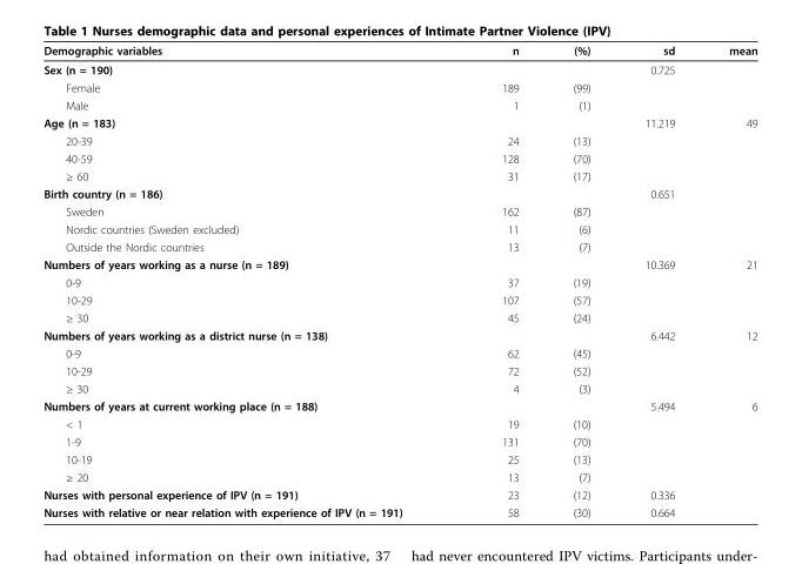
<table><thead><tr><td>Demographic variables</td><td>n</td><td>(%)</td><td>sd</td><td>mean</td></tr></thead><tbody><tr><td>Sex (n = 190)</td><td></td><td></td><td>0.725</td><td></td></tr><tr><td>Female</td><td>189</td><td>(99)</td><td></td><td></td></tr><tr><td>Male</td><td>1</td><td>(1)</td><td></td><td></td></tr><tr><td>Age (n = 183)</td><td></td><td></td><td>11.219</td><td>49</td></tr><tr><td>20-39</td><td>24</td><td>(13)</td><td></td><td></td></tr><tr><td>40-59</td><td>128</td><td>(70)</td><td></td><td></td></tr><tr><td>≥ 60</td><td>31</td><td>(17)</td><td></td><td></td></tr><tr><td>Birth country (n = 186)</td><td></td><td></td><td>0.651</td><td></td></tr><tr><td>Sweden</td><td>162</td><td>(87)</td><td></td><td></td></tr><tr><td>Nordic countries (Sweden excluded)</td><td>11</td><td>(6)</td><td></td><td></td></tr><tr><td>Outside the Nordic countries</td><td>13</td><td>(7)</td><td></td><td></td></tr><tr><td>Numbers of years working as a nurse (n = 189)</td><td></td><td></td><td>10.369</td><td>21</td></tr><tr><td>0-9</td><td>37</td><td>(19)</td><td></td><td></td></tr><tr><td>10-29</td><td>107</td><td>(57)</td><td></td><td></td></tr><tr><td>≥ 30</td><td>45</td><td>(24)</td><td></td><td></td></tr><tr><td>Numbers of years working as a district nurse (n = 138)</td><td></td><td></td><td>6.442</td><td>12</td></tr><tr><td>0-9</td><td>62</td><td>(45)</td><td></td><td></td></tr><tr><td>10-29</td><td>72</td><td>(52)</td><td></td><td></td></tr><tr><td>≥ 30</td><td>4</td><td>(3)</td><td></td><td></td></tr><tr><td>Numbers of years at current working place (n = 188)</td><td></td><td></td><td>5.494</td><td>6</td></tr><tr><td>&lt; 1</td><td>19</td><td>(10)</td><td></td><td></td></tr><tr><td>1-9</td><td>131</td><td>(70)</td><td></td><td></td></tr><tr><td>10-19</td><td>25</td><td>(13)</td><td></td><td></td></tr><tr><td>≥ 20</td><td>13</td><td>(7)</td><td></td><td></td></tr><tr><td>Nurses with personal experience of IPV (n = 191)</td><td>23</td><td>(12)</td><td>0.336</td><td></td></tr><tr><td>Nurses with relative or near relation with experience of IPV (n = 191)</td><td>58</td><td>(30)</td><td>0.664</td><td></td></tr></tbody></table>